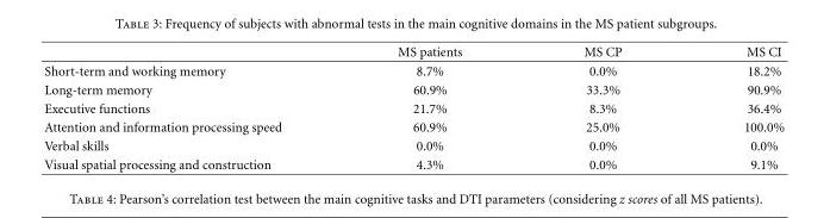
<table><thead><tr><td></td><td>MS patients</td><td>MS CP</td><td>MS CI</td></tr></thead><tbody><tr><td>Short-term and working memory</td><td>8.7%</td><td>0.0%</td><td>18.2%</td></tr><tr><td>Long-term memory</td><td>60.9%</td><td>33.3%</td><td>90.9%</td></tr><tr><td>Executive functions</td><td>21.7%</td><td>8.3%</td><td>36.4%</td></tr><tr><td>Attention and information processing speed</td><td>60.9%</td><td>25.0%</td><td>100.0%</td></tr><tr><td>Verbal skills</td><td>0.0%</td><td>0.0%</td><td>0.0%</td></tr><tr><td>Visual spatial processing and construction</td><td>4.3%</td><td>0.0%</td><td>9.1%</td></tr></tbody></table>